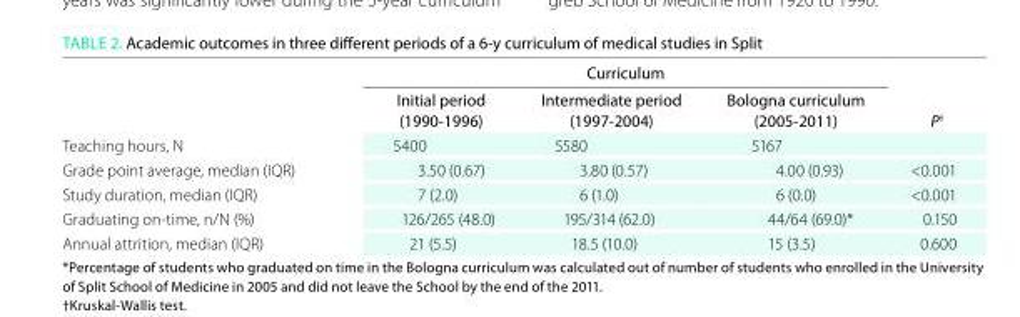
<table><thead><tr><td rowspan="2"></td><td colspan="3">Curriculum</td><td rowspan="2">P<sup>†</sup></td></tr><tr><td>initial period (1990-1996)</td><td>intermediate period (1997-2004)</td><td>Bologna curriculum (2005-2011)</td></tr></thead><tbody><tr><td>Teaching hours, N</td><td>5400</td><td>5580</td><td>5167</td><td></td></tr><tr><td>Grade point average, median (IQR)</td><td>3.50 (0.67)</td><td>3.80 (0.57)</td><td>4.00 (0.93)</td><td>&lt;0.001</td></tr><tr><td>Study duration, median (IQR)</td><td>7 (2.0)</td><td>6 (1.0)</td><td>6 (0.0)</td><td>&lt;0.001</td></tr><tr><td>Graduating on-time, n/N (%)</td><td>126/265 (48.0)</td><td>195/314 (62.0)</td><td>44/64 (69.0)*</td><td>0.150</td></tr><tr><td>Annual attrition, median (IQR)</td><td>21 (5.5)</td><td>18.5 (10.0)</td><td>15 (3.5)</td><td>0.600</td></tr></tbody></table>